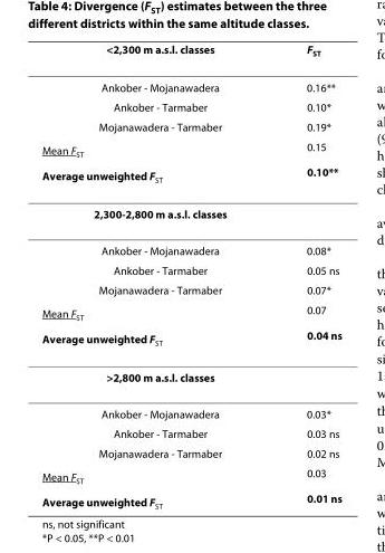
<table><thead><tr><td>&lt;2,300 m a.s.l. classes</td><td>F<sub>ST</sub></td></tr></thead><tbody><tr><td>Ankober - Mojanawadera</td><td>0.16**</td></tr><tr><td>Ankober - Tarmaber</td><td>0.10*</td></tr><tr><td>Mojanawadera - Tarmaber</td><td>0.19*</td></tr><tr><td>Mean F<sub>ST</sub></td><td>0.15</td></tr><tr><td>Average unweighted F<sub>ST</sub></td><td>0.10**</td></tr><tr><td colspan="2">2,300-2,800 m a.s.l. classes</td></tr><tr><td>Ankober - Mojanawadera</td><td>0.08*</td></tr><tr><td>Ankober - Tarmaber</td><td>0.05 ns</td></tr><tr><td>Mojanawadera - Tarmaber</td><td>0.07*</td></tr><tr><td>Mean F<sub>ST</sub></td><td>0.07</td></tr><tr><td>Average unweighted F<sub>ST</sub></td><td>0.04 ns</td></tr><tr><td colspan="2">&gt;2,800 m a.s.l. classes</td></tr><tr><td>Ankober - Mojanawadera</td><td>0.03*</td></tr><tr><td>Ankober - Tarmaber</td><td>0.03 ns</td></tr><tr><td>Mojanawadera - Tarmaber</td><td>0.02 ns</td></tr><tr><td>Mean F<sub>ST</sub></td><td>0.03</td></tr><tr><td>Average unweighted F<sub>ST</sub></td><td>0.01 ns</td></tr></tbody></table>